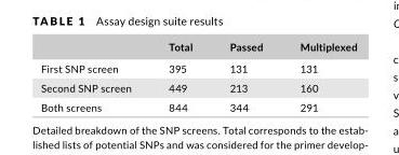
<table><thead><tr><td></td><td>Total</td><td>Passed</td><td>Multiplexed</td></tr></thead><tbody><tr><td>First SNP screen</td><td>395</td><td>131</td><td>131</td></tr><tr><td>Second SNP screen</td><td>449</td><td>213</td><td>160</td></tr><tr><td>Both screens</td><td>844</td><td>344</td><td>291</td></tr></tbody></table>